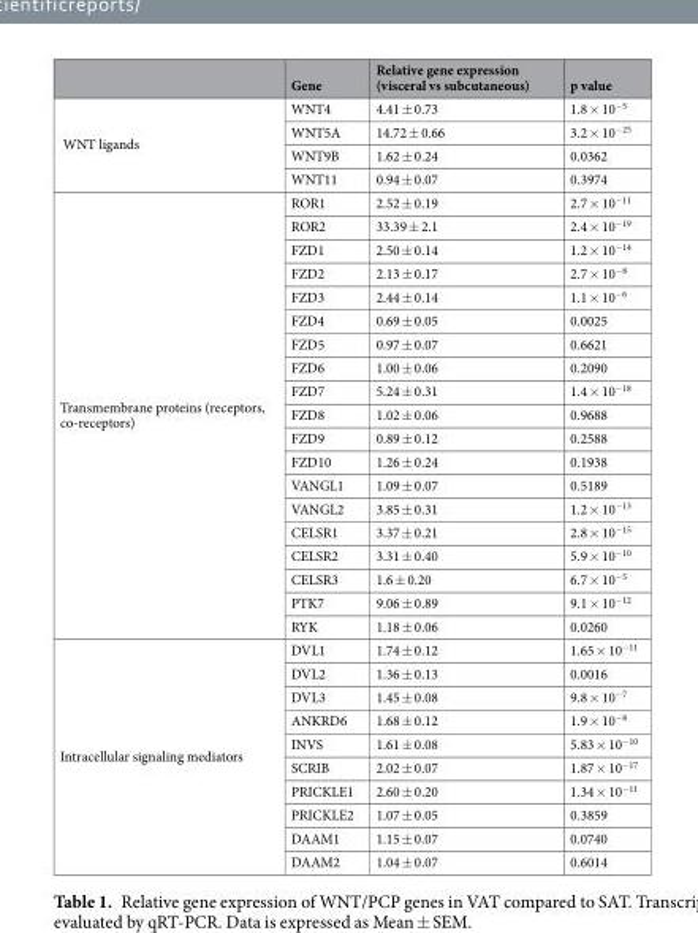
<table><thead><tr><td></td><td>Gene</td><td>Relative gene expression (visceral vs subcutaneous)</td><td>p value</td></tr></thead><tbody><tr><td rowspan="4">WNT ligands</td><td>WNT4</td><td>4.41 ± 0.73</td><td>1.8 × 10<sup>−5</sup></td></tr><tr><td>WNT5A</td><td>14.72 ± 0.66</td><td>3.2 × 10<sup>−25</sup></td></tr><tr><td>WNT9B</td><td>1.62 ± 0.24</td><td>0.0362</td></tr><tr><td>WNT11</td><td>0.94 ± 0.07</td><td>0.3974</td></tr><tr><td rowspan="19">Transmembrane proteins (receptors, co-receptors)</td><td>ROR1</td><td>2.52 ± 0.19</td><td>2.7 × 10<sup>−11</sup></td></tr><tr><td>ROR2</td><td>33.39 ± 2.1</td><td>2.4 × 10<sup>−19</sup></td></tr><tr><td>FZD1</td><td>2.50 ± 0.14</td><td>1.2 × 10<sup>−14</sup></td></tr><tr><td>FZD2</td><td>2.13 ± 0.17</td><td>2.7 × 10<sup>−8</sup></td></tr><tr><td>FZD3</td><td>2.44 ± 0.14</td><td>1.1 × 10<sup>−6</sup></td></tr><tr><td>FZD4</td><td>0.69 ± 0.05</td><td>0.0025</td></tr><tr><td>FZD5</td><td>0.97 ± 0.07</td><td>0.6621</td></tr><tr><td>FZD6</td><td>1.00 ± 0.06</td><td>0.2090</td></tr><tr><td>FZD7</td><td>5.24 ± 0.31</td><td>1.4 × 10<sup>−18</sup></td></tr><tr><td>FZD8</td><td>1.02 ± 0.06</td><td>0.9688</td></tr><tr><td>FZD9</td><td>0.89 ± 0.12</td><td>0.2588</td></tr><tr><td>FZD10</td><td>1.26 ± 0.24</td><td>0.1938</td></tr><tr><td>VANGL1</td><td>1.09 ± 0.07</td><td>0.5189</td></tr><tr><td>VANGL2</td><td>3.85 ± 0.31</td><td>1.2 × 10<sup>−13</sup></td></tr><tr><td>CELSR1</td><td>3.37 ± 0.21</td><td>2.8 × 10<sup>−15</sup></td></tr><tr><td>CELSR2</td><td>3.31 ± 0.40</td><td>5.9 × 10<sup>−10</sup></td></tr><tr><td>CELSR3</td><td>1.6 ± 0.20</td><td>6.7 × 10<sup>−5</sup></td></tr><tr><td>PTK7</td><td>9.06 ± 0.89</td><td>9.1 × 10<sup>−12</sup></td></tr><tr><td>RYK</td><td>1.18 ± 0.06</td><td>0.0260</td></tr><tr><td rowspan="10">Intracellular signaling mediators</td><td>DVL1</td><td>1.74 ± 0.12</td><td>1.65 × 10<sup>−11</sup></td></tr><tr><td>DVL2</td><td>1.36 ± 0.13</td><td>0.0016</td></tr><tr><td>DVL3</td><td>1.45 ± 0.08</td><td>9.8 × 10<sup>−7</sup></td></tr><tr><td>ANKRD6</td><td>1.68 ± 0.12</td><td>1.9 × 10<sup>−8</sup></td></tr><tr><td>INVS</td><td>1.61 ± 0.08</td><td>5.83 × 10<sup>−10</sup></td></tr><tr><td>SCRIB</td><td>2.02 ± 0.07</td><td>1.87 × 10<sup>−17</sup></td></tr><tr><td>PRICKLE1</td><td>2.60 ± 0.20</td><td>1.34 × 10<sup>−11</sup></td></tr><tr><td>PRICKLE2</td><td>1.07 ± 0.05</td><td>0.3859</td></tr><tr><td>DAAM1</td><td>1.15 ± 0.07</td><td>0.0740</td></tr><tr><td>DAAM2</td><td>1.04 ± 0.07</td><td>0.6014</td></tr></tbody></table>